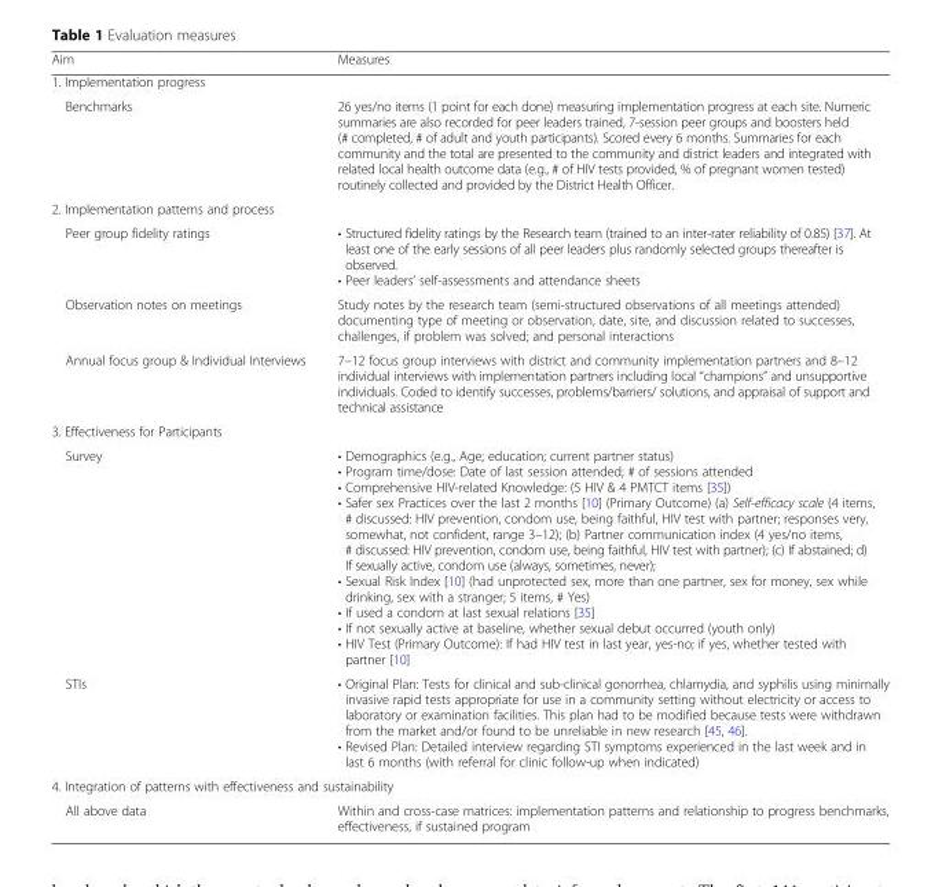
<table><thead><tr><td>Aim</td><td>Measures</td></tr></thead><tbody><tr><td colspan="2">1. Implementation progress</td></tr><tr><td>Benchmarks</td><td>26 yes/no items (1 point for each done) measuring implementation progress at each site. Numeric summaries are also recorded for peer leaders trained, 7-session peer groups and boosters held (# completed, # of adult and youth participants). Scored every 6 months. Summaries for each community and the total are presented to the community and district leaders and integrated with related local health outcome data (e.g., # of HIV tests provided, % of pregnant women tested) routinely collected and provided by the District Health Officer.</td></tr><tr><td colspan="2">2. Implementation patterns and process</td></tr><tr><td>Peer group fidelity ratings</td><td>• Structured fidelity ratings by the Research team (trained to an inter-rater reliability of 0.85) [37]. At least one of the early sessions of all peer leaders plus randomly selected groups thereafter is observed. • Peer leaders’ self-assessments and attendance sheets</td></tr><tr><td>Observation notes on meetings</td><td>Study notes by the research team (semi-structured observations of all meetings attended) documenting type of meeting or observation, date, site, and discussion related to successes, challenges, if problem was solved; and personal interactions</td></tr><tr><td>Annual focus group &amp; Individual Interviews</td><td>7–12 focus group interviews with district and community implementation partners and 8–12 individual interviews with implementation partners including local “champions” and unsupportive individuals. Coded to identify successes, problems/barriers/ solutions, and appraisal of support and technical assistance</td></tr><tr><td colspan="2">3. Effectiveness for Participants</td></tr><tr><td>Survey</td><td>• Demographics (e.g., Age; education; current partner status) • Program time/dose: Date of last session attended; # of sessions attended • Comprehensive HIV-related Knowledge: (5 HIV &amp; 4 PMTCT items [35]) • Safer sex Practices over the last 2 months [10] (Primary Outcome) (a) Self-efficacy scale (4 items, # discussed: HIV prevention, condom use, being faithful, HIV test with partner; responses very, somewhat, not confident, range 3–12); (b) Partner communication index (4 yes/no items, # discussed: HIV prevention, condom use, being faithful, HIV test with partner); (c) If abstained; d) If sexually active, condom use (always, sometimes, never); • Sexual Risk Index [10] (had unprotected sex, more than one partner, sex for money, sex while drinking, sex with a stranger; 5 items, # Yes) • If used a condom at last sexual relations [35] • If not sexually active at baseline, whether sexual debut occurred (youth only) • HIV Test (Primary Outcome): If had HIV test in last year, yes-no; if yes, whether tested with partner [10]</td></tr><tr><td>STIs</td><td>• Original Plan: Tests for clinical and sub-clinical gonorrhea, chlamydia, and syphilis using minimally invasive rapid tests appropriate for use in a community setting without electricity or access to laboratory or examination facilities. This plan had to be modified because tests were withdrawn from the market and/or found to be unreliable in new research [45, 46]. • Revised Plan: Detailed interview regarding STI symptoms experienced in the last week and in last 6 months (with referral for clinic follow-up when indicated)</td></tr><tr><td colspan="2">4. Integration of patterns with effectiveness and sustainability</td></tr><tr><td>All above data</td><td>Within and cross-case matrices: implementation patterns and relationship to progress benchmarks, effectiveness, if sustained program</td></tr></tbody></table>